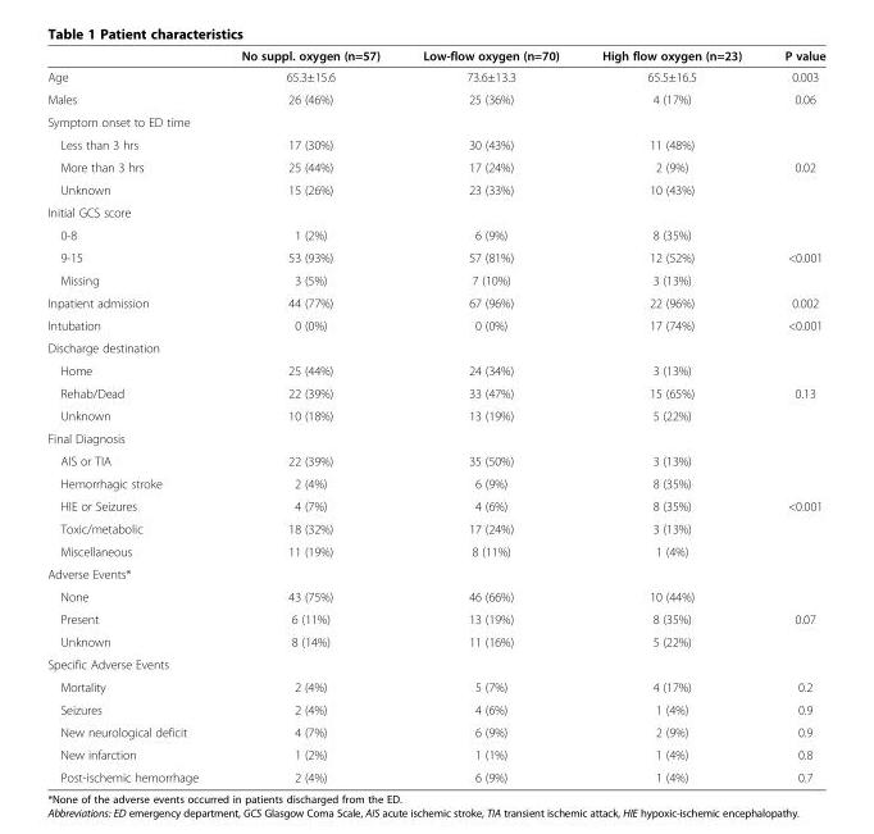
<table><thead><tr><td></td><td>No suppl. oxygen (n=57)</td><td>Low-flow oxygen (n=70)</td><td>High flow oxygen (n=23)</td><td>P value</td></tr></thead><tbody><tr><td>Age</td><td>65.3±15.6</td><td>73.6±13.3</td><td>65.5±16.5</td><td>0.003</td></tr><tr><td>Males</td><td>26 (46%)</td><td>25 (36%)</td><td>4 (17%)</td><td>0.06</td></tr><tr><td colspan="5">Symptom onset to ED time</td></tr><tr><td>Less than 3 hrs</td><td>17 (30%)</td><td>30 (43%)</td><td>11 (48%)</td><td></td></tr><tr><td>More than 3 hrs</td><td>25 (44%)</td><td>17 (24%)</td><td>2 (9%)</td><td>0.02</td></tr><tr><td>Unknown</td><td>15 (26%)</td><td>23 (33%)</td><td>10 (43%)</td><td></td></tr><tr><td colspan="5">Initial GCS score</td></tr><tr><td>0-8</td><td>1 (2%)</td><td>6 (9%)</td><td>8 (35%)</td><td></td></tr><tr><td>9-15</td><td>53 (93%)</td><td>57 (81%)</td><td>12 (52%)</td><td>&lt;0.001</td></tr><tr><td>Missing</td><td>3 (5%)</td><td>7 (10%)</td><td>3 (13%)</td><td></td></tr><tr><td>Inpatient admission</td><td>44 (77%)</td><td>67 (96%)</td><td>22 (96%)</td><td>0.002</td></tr><tr><td>Intubation</td><td>0 (0%)</td><td>0 (0%)</td><td>17 (74%)</td><td>&lt;0.001</td></tr><tr><td colspan="5">Discharge destination</td></tr><tr><td>Home</td><td>25 (44%)</td><td>24 (34%)</td><td>3 (13%)</td><td></td></tr><tr><td>Rehab/Dead</td><td>22 (39%)</td><td>33 (47%)</td><td>15 (65%)</td><td>0.13</td></tr><tr><td>Unknown</td><td>10 (18%)</td><td>13 (19%)</td><td>5 (22%)</td><td></td></tr><tr><td colspan="5">Final Diagnosis</td></tr><tr><td>AIS or TIA</td><td>22 (39%)</td><td>35 (50%)</td><td>3 (13%)</td><td></td></tr><tr><td>Hemorrhagic stroke</td><td>2 (4%)</td><td>6 (9%)</td><td>8 (35%)</td><td></td></tr><tr><td>HIE or Seizures</td><td>4 (7%)</td><td>4 (6%)</td><td>8 (35%)</td><td>&lt;0.001</td></tr><tr><td>Toxic/metabolic</td><td>18 (32%)</td><td>17 (24%)</td><td>3 (13%)</td><td></td></tr><tr><td>Miscellaneous</td><td>11 (19%)</td><td>8 (11%)</td><td>1 (4%)</td><td></td></tr><tr><td colspan="5">Adverse Events*</td></tr><tr><td>None</td><td>43 (75%)</td><td>46 (66%)</td><td>10 (44%)</td><td></td></tr><tr><td>Present</td><td>6 (11%)</td><td>13 (19%)</td><td>8 (35%)</td><td>0.07</td></tr><tr><td>Unknown</td><td>8 (14%)</td><td>11 (16%)</td><td>5 (22%)</td><td></td></tr><tr><td colspan="5">Specific Adverse Events</td></tr><tr><td>Mortality</td><td>2 (4%)</td><td>5 (7%)</td><td>4 (17%)</td><td>0.2</td></tr><tr><td>Seizures</td><td>2 (4%)</td><td>4 (6%)</td><td>1 (4%)</td><td>0.9</td></tr><tr><td>New neurological deficit</td><td>4 (7%)</td><td>6 (9%)</td><td>2 (9%)</td><td>0.9</td></tr><tr><td>New infarction</td><td>1 (2%)</td><td>1 (1%)</td><td>1 (4%)</td><td>0.8</td></tr><tr><td>Post-ischemic hemorrhage</td><td>2 (4%)</td><td>6 (9%)</td><td>1 (4%)</td><td>0.7</td></tr></tbody></table>